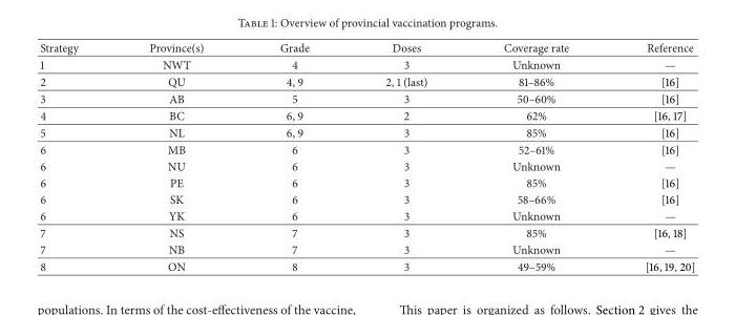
<table><thead><tr><td>Strategy</td><td>Province(s)</td><td>Grade</td><td>Doses</td><td>Coverage rate</td><td>Reference</td></tr></thead><tbody><tr><td>1</td><td>NWT</td><td>4</td><td>3</td><td>Unknown</td><td>—</td></tr><tr><td>2</td><td>QU</td><td>4, 9</td><td>2, 1 (last)</td><td>81–86%</td><td>[16]</td></tr><tr><td>3</td><td>AB</td><td>5</td><td>3</td><td>50–60%</td><td>[16]</td></tr><tr><td>4</td><td>BC</td><td>6, 9</td><td>2</td><td>62%</td><td>[16, 17]</td></tr><tr><td>5</td><td>NL</td><td>6, 9</td><td>3</td><td>85%</td><td>[16]</td></tr><tr><td>6</td><td>MB</td><td>6</td><td>3</td><td>52–61%</td><td>[16]</td></tr><tr><td>6</td><td>NU</td><td>6</td><td>3</td><td>Unknown</td><td>—</td></tr><tr><td>6</td><td>PE</td><td>6</td><td>3</td><td>85%</td><td>[16]</td></tr><tr><td>6</td><td>SK</td><td>6</td><td>3</td><td>58–66%</td><td>[16]</td></tr><tr><td>6</td><td>YK</td><td>6</td><td>3</td><td>Unknown</td><td>—</td></tr><tr><td>7</td><td>NS</td><td>7</td><td>3</td><td>85%</td><td>[16, 18]</td></tr><tr><td>7</td><td>NB</td><td>7</td><td>3</td><td>Unknown</td><td>—</td></tr><tr><td>8</td><td>ON</td><td>8</td><td>3</td><td>49–59%</td><td>[16, 19, 20]</td></tr></tbody></table>